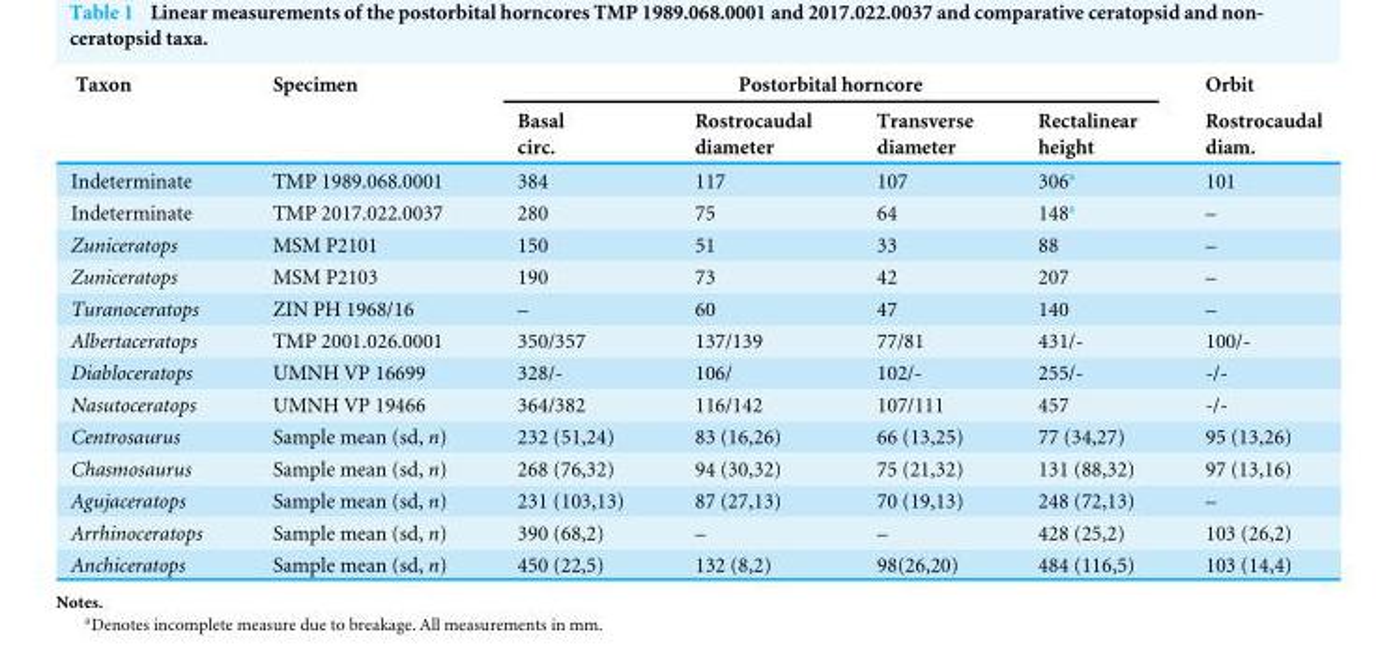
<table><thead><tr><td rowspan="2">Taxon</td><td rowspan="2">Specimen</td><td colspan="4">Postorbital horncore</td><td rowspan="2">Orbit Rostrocaudal diam.</td></tr><tr><td>Basal circ.</td><td>Rostrocaudal diameter</td><td>Transverse diameter</td><td>Rectalinear height</td></tr></thead><tbody><tr><td>Indeterminate</td><td>TMP 1989.068.0001</td><td>384</td><td>117</td><td>107</td><td>306<sup>a</sup></td><td>101</td></tr><tr><td>Indeterminate</td><td>TMP 2017.022.0037</td><td>280</td><td>75</td><td>64</td><td>148<sup>a</sup></td><td>–</td></tr><tr><td>Zuniceratops</td><td>MSM P2101</td><td>150</td><td>51</td><td>33</td><td>88</td><td>–</td></tr><tr><td>Zuniceratops</td><td>MSM P2103</td><td>190</td><td>73</td><td>42</td><td>207</td><td>–</td></tr><tr><td>Turanoceratops</td><td>ZIN PH 1968/16</td><td>–</td><td>60</td><td>47</td><td>140</td><td>–</td></tr><tr><td>Albertaceratops</td><td>TMP 2001.026.0001</td><td>350/357</td><td>137/139</td><td>77/81</td><td>431/-</td><td>100/-</td></tr><tr><td>Diabloceratops</td><td>UMNH VP 16699</td><td>328/-</td><td>106/</td><td>102/-</td><td>255/-</td><td>-/-</td></tr><tr><td>Nasutoceratops</td><td>UMNH VP 19466</td><td>364/382</td><td>116/142</td><td>107/111</td><td>457</td><td>-/-</td></tr><tr><td>Centrosaurus</td><td>Sample mean (sd, n)</td><td>232 (51,24)</td><td>83 (16,26)</td><td>66 (13,25)</td><td>77 (34,27)</td><td>95 (13,26)</td></tr><tr><td>Chasmosaurus</td><td>Sample mean (sd, n)</td><td>268 (76,32)</td><td>94 (30,32)</td><td>75 (21,32)</td><td>131 (88,32)</td><td>97 (13,16)</td></tr><tr><td>Agujaceratops</td><td>Sample mean (sd, n)</td><td>231 (103,13)</td><td>87 (27,13)</td><td>70 (19,13)</td><td>248 (72,13)</td><td>–</td></tr><tr><td>Arrhinoceratops</td><td>Sample mean (sd, n)</td><td>390 (68,2)</td><td>–</td><td>–</td><td>428 (25,2)</td><td>103 (26,2)</td></tr><tr><td>Anchiceratops</td><td>Sample mean (sd, n)</td><td>450 (22,5)</td><td>132 (8,2)</td><td>98(26,20)</td><td>484 (116,5)</td><td>103 (14,4)</td></tr></tbody></table>